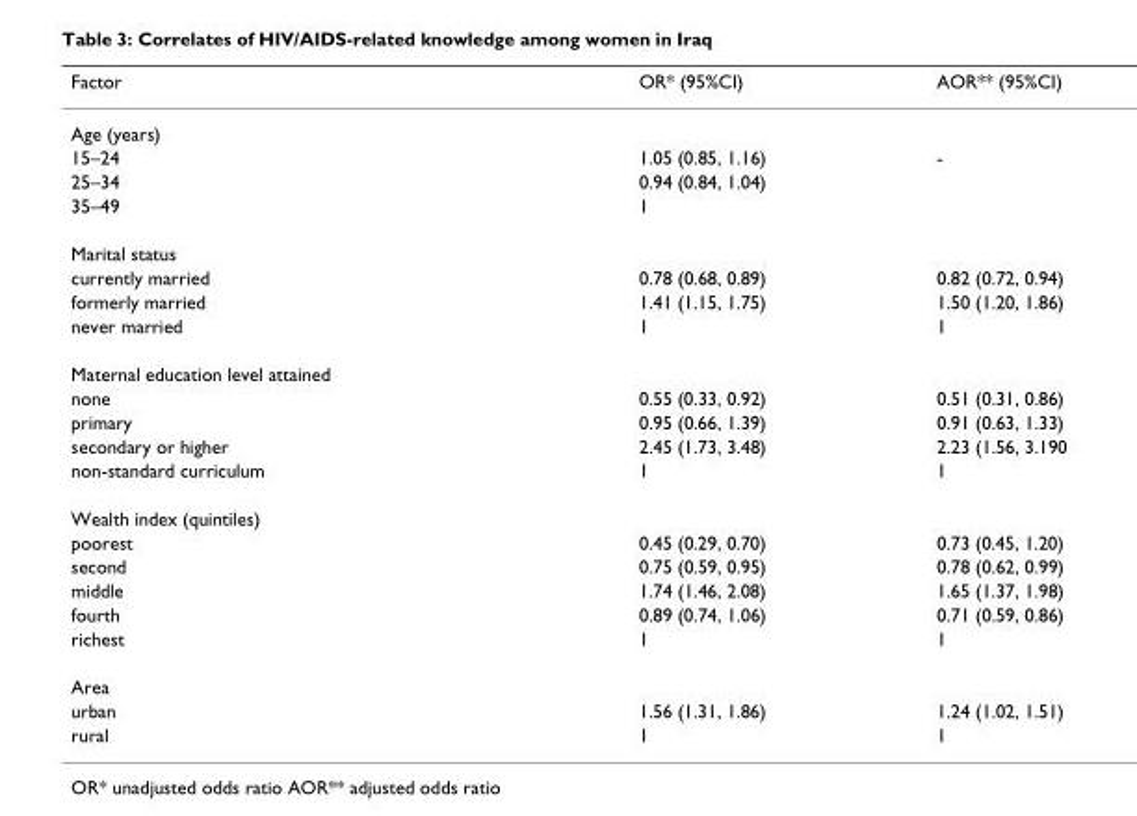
<table><thead><tr><td>Factor</td><td>OR* (95%CI)</td><td>AOR** (95%CI)</td></tr></thead><tbody><tr><td colspan="3">Age (years)</td></tr><tr><td>15–24</td><td>1.05 (0.85, 1.16)</td><td>-</td></tr><tr><td>25–34</td><td>0.94 (0.84, 1.04)</td><td></td></tr><tr><td>35–49</td><td>1</td><td></td></tr><tr><td colspan="3">Marital status</td></tr><tr><td>currently married</td><td>0.78 (0.68, 0.89)</td><td>0.82 (0.72, 0.94)</td></tr><tr><td>formerly married</td><td>1.41 (1.15, 1.75)</td><td>1.50 (1.20, 1.86)</td></tr><tr><td>never married</td><td>1</td><td>1</td></tr><tr><td colspan="3">Maternal education level attained</td></tr><tr><td>none</td><td>0.55 (0.33, 0.92)</td><td>0.51 (0.31, 0.86)</td></tr><tr><td>primary</td><td>0.95 (0.66, 1.39)</td><td>0.91 (0.63, 1.33)</td></tr><tr><td>secondary or higher</td><td>2.45 (1.73, 3.48)</td><td>2.23 (1.56, 3.190</td></tr><tr><td>non-standard curriculum</td><td>1</td><td>1</td></tr><tr><td colspan="3">Wealth index (quintiles)</td></tr><tr><td>poorest</td><td>0.45 (0.29, 0.70)</td><td>0.73 (0.45, 1.20)</td></tr><tr><td>second</td><td>0.75 (0.59, 0.95)</td><td>0.78 (0.62, 0.99)</td></tr><tr><td>middle</td><td>1.74 (1.46, 2.08)</td><td>1.65 (1.37, 1.98)</td></tr><tr><td>fourth</td><td>0.89 (0.74, 1.06)</td><td>0.71 (0.59, 0.86)</td></tr><tr><td>richest</td><td>1</td><td>1</td></tr><tr><td colspan="3">Area</td></tr><tr><td>urban</td><td>1.56 (1.31, 1.86)</td><td>1.24 (1.02, 1.51)</td></tr><tr><td>rural</td><td>1</td><td>1</td></tr></tbody></table>